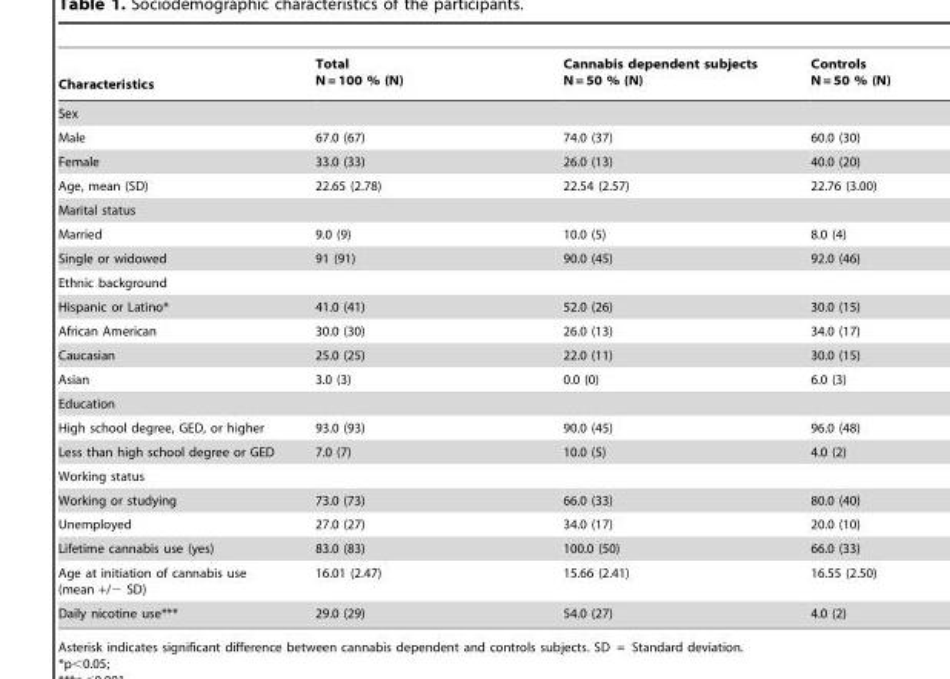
<table><thead><tr><td>Characteristics</td><td>Total N = 100 % (N)</td><td>Cannabis dependent subjects N = 50 % (N)</td><td>Controls N = 50 % (N)</td></tr></thead><tbody><tr><td colspan="4">Sex</td></tr><tr><td>Male</td><td>67.0 (67)</td><td>74.0 (37)</td><td>60.0 (30)</td></tr><tr><td>Female</td><td>33.0 (33)</td><td>26.0 (13)</td><td>40.0 (20)</td></tr><tr><td>Age, mean (SD)</td><td>22.65 (2.78)</td><td>22.54 (2.57)</td><td>22.76 (3.00)</td></tr><tr><td colspan="4">Marital status</td></tr><tr><td>Married</td><td>9.0 (9)</td><td>10.0 (5)</td><td>8.0 (4)</td></tr><tr><td>Single or widowed</td><td>91 (91)</td><td>90.0 (45)</td><td>92.0 (46)</td></tr><tr><td colspan="4">Ethnic background</td></tr><tr><td>Hispanic or Latino*</td><td>41.0 (41)</td><td>52.0 (26)</td><td>30.0 (15)</td></tr><tr><td>African American</td><td>30.0 (30)</td><td>26.0 (13)</td><td>34.0 (17)</td></tr><tr><td>Caucasian</td><td>25.0 (25)</td><td>22.0 (11)</td><td>30.0 (15)</td></tr><tr><td>Asian</td><td>3.0 (3)</td><td>0.0 (0)</td><td>6.0 (3)</td></tr><tr><td colspan="4">Education</td></tr><tr><td>High school degree, GED, or higher</td><td>93.0 (93)</td><td>90.0 (45)</td><td>96.0 (48)</td></tr><tr><td>Less than high school degree or GED</td><td>7.0 (7)</td><td>10.0 (5)</td><td>4.0 (2)</td></tr><tr><td colspan="4">Working status</td></tr><tr><td>Working or studying</td><td>73.0 (73)</td><td>66.0 (33)</td><td>80.0 (40)</td></tr><tr><td>Unemployed</td><td>27.0 (27)</td><td>34.0 (17)</td><td>20.0 (10)</td></tr><tr><td>Lifetime cannabis use (yes)</td><td>83.0 (83)</td><td>100.0 (50)</td><td>66.0 (33)</td></tr><tr><td>Age at initiation of cannabis use (mean +/− SD)</td><td>16.01 (2.47)</td><td>15.66 (2.41)</td><td>16.55 (2.50)</td></tr><tr><td>Daily nicotine use***</td><td>29.0 (29)</td><td>54.0 (27)</td><td>4.0 (2)</td></tr></tbody></table>